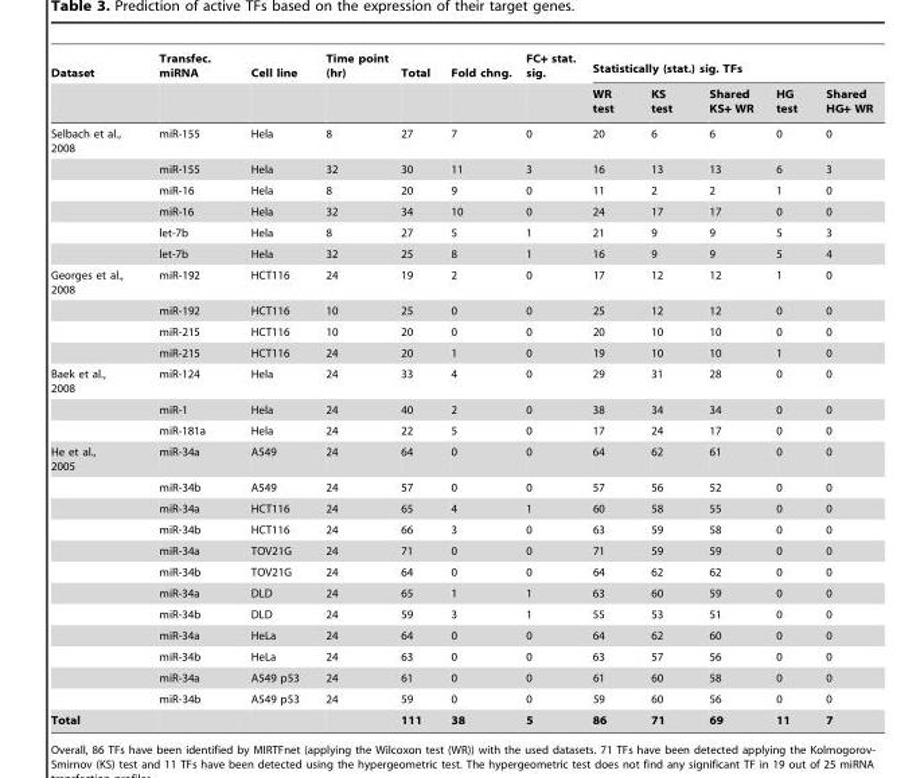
<table><thead><tr><td rowspan="2">Dataset</td><td rowspan="2">Transfec. miRNA</td><td rowspan="2">Cell line</td><td rowspan="2">Time point (hr)</td><td rowspan="2">Total</td><td rowspan="2">Fold chng.</td><td rowspan="2">FC+ stat. sig.</td><td colspan="5">Statistically (stat.) sig. TFs</td></tr><tr><td>WR test</td><td>KS test</td><td>Shared KS+ WR</td><td>HG test</td><td>Shared HG+ WR</td></tr></thead><tbody><tr><td rowspan="6">Selbach et al., 2008</td><td>miR-155</td><td>Hela</td><td>8</td><td>27</td><td>7</td><td>0</td><td>20</td><td>6</td><td>6</td><td>0</td><td>0</td></tr><tr><td>miR-155</td><td>Hela</td><td>32</td><td>30</td><td>11</td><td>3</td><td>16</td><td>13</td><td>13</td><td>6</td><td>3</td></tr><tr><td>miR-16</td><td>Hela</td><td>8</td><td>20</td><td>9</td><td>0</td><td>11</td><td>2</td><td>2</td><td>1</td><td>0</td></tr><tr><td>miR-16</td><td>Hela</td><td>32</td><td>34</td><td>10</td><td>0</td><td>24</td><td>17</td><td>17</td><td>0</td><td>0</td></tr><tr><td>let-7b</td><td>Hela</td><td>8</td><td>27</td><td>5</td><td>1</td><td>21</td><td>9</td><td>9</td><td>5</td><td>3</td></tr><tr><td>let-7b</td><td>Hela</td><td>32</td><td>25</td><td>8</td><td>1</td><td>16</td><td>9</td><td>9</td><td>5</td><td>4</td></tr><tr><td rowspan="4">Georges et al., 2008</td><td>miR-192</td><td>HCT116</td><td>24</td><td>19</td><td>2</td><td>0</td><td>17</td><td>12</td><td>12</td><td>1</td><td>0</td></tr><tr><td>miR-192</td><td>HCT116</td><td>10</td><td>25</td><td>0</td><td>0</td><td>25</td><td>12</td><td>12</td><td>0</td><td>0</td></tr><tr><td>miR-215</td><td>HCT116</td><td>10</td><td>20</td><td>0</td><td>0</td><td>20</td><td>10</td><td>10</td><td>0</td><td>0</td></tr><tr><td>miR-215</td><td>HCT116</td><td>24</td><td>20</td><td>1</td><td>0</td><td>19</td><td>10</td><td>10</td><td>1</td><td>0</td></tr><tr><td rowspan="3">Baek et al., 2008</td><td>miR-124</td><td>Hela</td><td>24</td><td>33</td><td>4</td><td>0</td><td>29</td><td>31</td><td>28</td><td>0</td><td>0</td></tr><tr><td>miR-1</td><td>Hela</td><td>24</td><td>40</td><td>2</td><td>0</td><td>38</td><td>34</td><td>34</td><td>0</td><td>0</td></tr><tr><td>miR-181a</td><td>Hela</td><td>24</td><td>22</td><td>5</td><td>0</td><td>17</td><td>24</td><td>17</td><td>0</td><td>0</td></tr><tr><td rowspan="12">He et al., 2005</td><td>miR-34a</td><td>A549</td><td>24</td><td>64</td><td>0</td><td>0</td><td>64</td><td>62</td><td>61</td><td>0</td><td>0</td></tr><tr><td>miR-34b</td><td>A549</td><td>24</td><td>57</td><td>0</td><td>0</td><td>57</td><td>56</td><td>52</td><td>0</td><td>0</td></tr><tr><td>miR-34a</td><td>HCT116</td><td>24</td><td>65</td><td>4</td><td>1</td><td>60</td><td>58</td><td>55</td><td>0</td><td>0</td></tr><tr><td>miR-34b</td><td>HCT116</td><td>24</td><td>66</td><td>3</td><td>0</td><td>63</td><td>59</td><td>58</td><td>0</td><td>0</td></tr><tr><td>miR-34a</td><td>TOV21G</td><td>24</td><td>71</td><td>0</td><td>0</td><td>71</td><td>59</td><td>59</td><td>0</td><td>0</td></tr><tr><td>miR-34b</td><td>TOV21G</td><td>24</td><td>64</td><td>0</td><td>0</td><td>64</td><td>62</td><td>62</td><td>0</td><td>0</td></tr><tr><td>miR-34a</td><td>DLD</td><td>24</td><td>65</td><td>1</td><td>1</td><td>63</td><td>60</td><td>59</td><td>0</td><td>0</td></tr><tr><td>miR-34b</td><td>DLD</td><td>24</td><td>59</td><td>3</td><td>1</td><td>55</td><td>53</td><td>51</td><td>0</td><td>0</td></tr><tr><td>miR-34a</td><td>HeLa</td><td>24</td><td>64</td><td>0</td><td>0</td><td>64</td><td>62</td><td>60</td><td>0</td><td>0</td></tr><tr><td>miR-34b</td><td>HeLa</td><td>24</td><td>63</td><td>0</td><td>0</td><td>63</td><td>57</td><td>56</td><td>0</td><td>0</td></tr><tr><td>miR-34a</td><td>A549 p53</td><td>24</td><td>61</td><td>0</td><td>0</td><td>61</td><td>60</td><td>58</td><td>0</td><td>0</td></tr><tr><td>miR-34b</td><td>A549 p53</td><td>24</td><td>59</td><td>0</td><td>0</td><td>59</td><td>60</td><td>56</td><td>0</td><td>0</td></tr><tr><td>Total</td><td></td><td></td><td></td><td>111</td><td>38</td><td>5</td><td>86</td><td>71</td><td>69</td><td>11</td><td>7</td></tr></tbody></table>